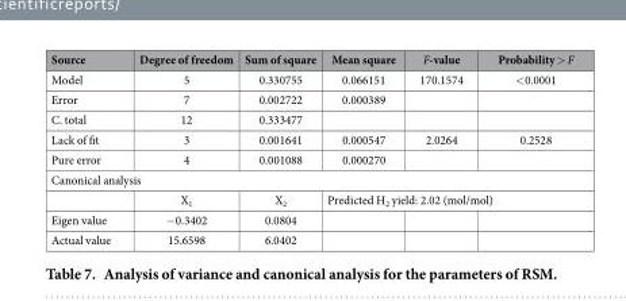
<table><thead><tr><td>Source</td><td>Degree of freedom</td><td>Sum of square</td><td>Mean square</td><td>F-value</td><td>Probability &gt; F</td></tr></thead><tbody><tr><td>Model</td><td>5</td><td>0.330755</td><td>0.066151</td><td>170.1574</td><td>&lt; 0.0001</td></tr><tr><td>Error</td><td>7</td><td>0.002722</td><td>0.000389</td><td></td><td></td></tr><tr><td>C. total</td><td>12</td><td>0.333477</td><td></td><td></td><td></td></tr><tr><td>Lack of fit</td><td>3</td><td>0.001641</td><td>0.000547</td><td>2.0264</td><td>0.2528</td></tr><tr><td>Pure error</td><td>4</td><td>0.001088</td><td>0.000270</td><td></td><td></td></tr><tr><td colspan="6">Canonical analysis</td></tr><tr><td></td><td>X<sub>1</sub></td><td>X<sub>2</sub></td><td colspan="3">Predicted H<sub>2</sub> yield: 2.02 (mol/mol)</td></tr><tr><td>Eigen value</td><td>− 0.3402</td><td>0.0804</td><td></td><td></td><td></td></tr><tr><td>Actual value</td><td>15.6598</td><td>6.0402</td><td></td><td></td><td></td></tr></tbody></table>